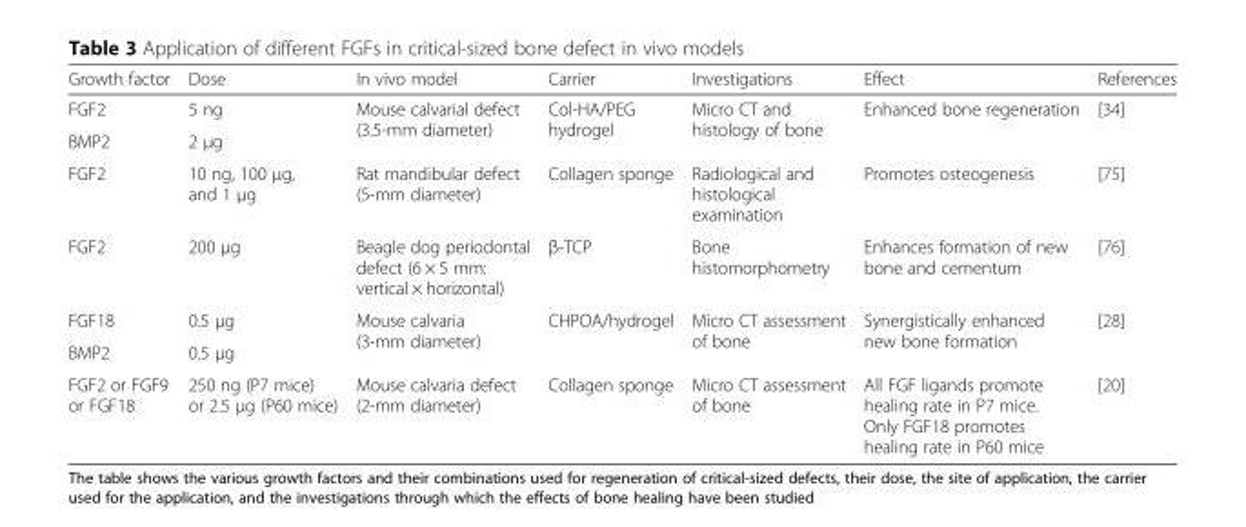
<table><thead><tr><td>Growth factor</td><td>Dose</td><td>In vivo model</td><td>Carrier</td><td>Investigations</td><td>Effect</td><td>References</td></tr></thead><tbody><tr><td>FGF2</td><td>5 ng</td><td rowspan="2">Mouse calvarial defect (3.5-mm diameter)</td><td rowspan="2">Col-HA/PEG hydrogel</td><td rowspan="2">Micro CT and histology of bone</td><td rowspan="2">Enhanced bone regeneration</td><td rowspan="2">[34]</td></tr><tr><td>BMP2</td><td>2 μg</td></tr><tr><td>FGF2</td><td>10 ng, 100 μg, and 1 μg</td><td>Rat mandibular defect (5-mm diameter)</td><td>Collagen sponge</td><td>Radiological and histological examination</td><td>Promotes osteogenesis</td><td>[75]</td></tr><tr><td>FGF2</td><td>200 μg</td><td>Beagle dog periodontal defect (6 × 5 mm: vertical × horizontal)</td><td>β-TCP</td><td>Bone histomorphometry</td><td>Enhances formation of new bone and cementum</td><td>[76]</td></tr><tr><td>FGF18</td><td>0.5 μg</td><td rowspan="2">Mouse calvaria (3-mm diameter)</td><td rowspan="2">CHPOA/hydrogel</td><td rowspan="2">Micro CT assessment of bone</td><td rowspan="2">Synergistically enhanced new bone formation</td><td rowspan="2">[28]</td></tr><tr><td>BMP2</td><td>0.5 μg</td></tr><tr><td>FGF2 or FGF9 or FGF18</td><td>250 ng (P7 mice) or 2.5 μg (P60 mice)</td><td>Mouse calvaria defect (2-mm diameter)</td><td>Collagen sponge</td><td>Micro CT assessment of bone</td><td>All FGF ligands promote healing rate in P7 mice. Only FGF18 promotes healing rate in P60 mice</td><td>[20]</td></tr></tbody></table>